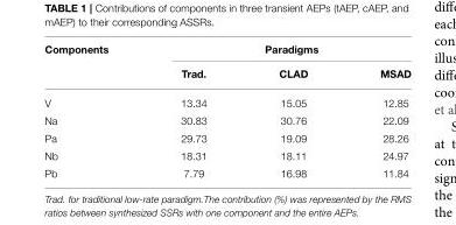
<table><thead><tr><td rowspan="2">Components</td><td colspan="3">Paradigms</td></tr><tr><td>Trad.</td><td>CLAD</td><td>MSAD</td></tr></thead><tbody><tr><td>V</td><td>13.34</td><td>15.05</td><td>12.85</td></tr><tr><td>Na</td><td>30.83</td><td>30.76</td><td>22.09</td></tr><tr><td>Pa</td><td>29.73</td><td>19.09</td><td>28.26</td></tr><tr><td>Nb</td><td>18.31</td><td>18.11</td><td>24.97</td></tr><tr><td>Pb</td><td>7.79</td><td>16.98</td><td>11.84</td></tr></tbody></table>